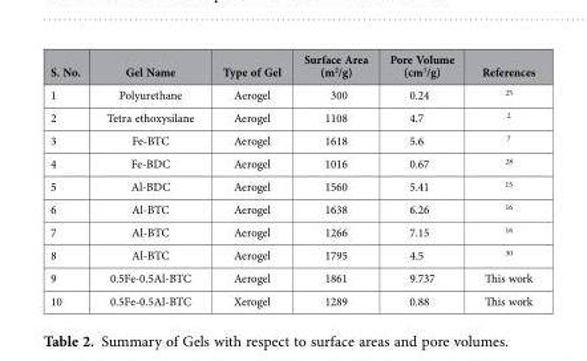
<table><thead><tr><td>S. No.</td><td>Gel Name</td><td>Type of Gel</td><td>Surface Area (m<sup>2</sup>/g)</td><td>Pore Volume (cm<sup>3</sup>/g)</td><td>References</td></tr></thead><tbody><tr><td>1</td><td>Polyurethane</td><td>Aerogel</td><td>300</td><td>0.24</td><td>25</td></tr><tr><td>2</td><td>Tetra ethoxysilane</td><td>Aerogel</td><td>1108</td><td>4.7</td><td>2</td></tr><tr><td>3</td><td>Fe-BTC</td><td>Aerogel</td><td>1618</td><td>5.6</td><td>7</td></tr><tr><td>4</td><td>Fe-BDC</td><td>Aerogel</td><td>1016</td><td>0.67</td><td>28</td></tr><tr><td>5</td><td>Al-BDC</td><td>Aerogel</td><td>1560</td><td>5.41</td><td>15</td></tr><tr><td>6</td><td>Al-BTC</td><td>Aerogel</td><td>1638</td><td>6.26</td><td>16</td></tr><tr><td>7</td><td>Al-BTC</td><td>Aerogel</td><td>1266</td><td>7.15</td><td>16</td></tr><tr><td>8</td><td>Al-BTC</td><td>Aerogel</td><td>1795</td><td>4.5</td><td>30</td></tr><tr><td>9</td><td>0.5Fe-0.5Al-BTC</td><td>Aerogel</td><td>1861</td><td>9.737</td><td>This work</td></tr><tr><td>10</td><td>0.5Fe-0.5Al-BTC</td><td>Xerogel</td><td>1289</td><td>0.88</td><td>This work</td></tr></tbody></table>